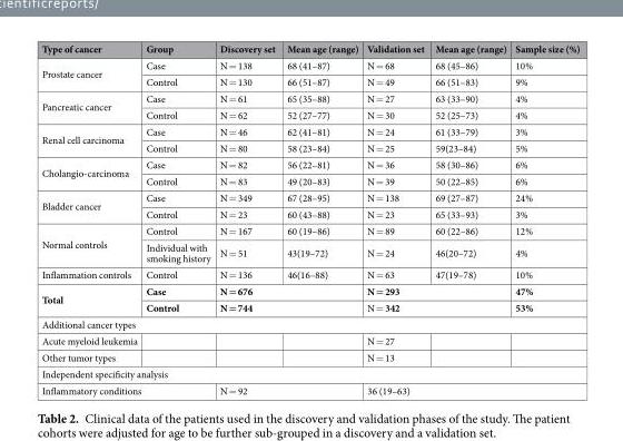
<table><thead><tr><td>Type of cancer</td><td>Group</td><td>Discovery set</td><td>Mean age (range)</td><td>Validation set</td><td>Mean age (range)</td><td>Sample size (%)</td></tr></thead><tbody><tr><td rowspan="2">Prostate cancer</td><td>Case</td><td>N = 138</td><td>68 (41–87)</td><td>N = 68</td><td>68 (45–86)</td><td>10%</td></tr><tr><td>Control</td><td>N = 130</td><td>66 (51–87)</td><td>N = 49</td><td>66 (51–83)</td><td>9%</td></tr><tr><td rowspan="2">Pancreatic cancer</td><td>Case</td><td>N = 61</td><td>65 (35–88)</td><td>N = 27</td><td>63 (33–90)</td><td>4%</td></tr><tr><td>Control</td><td>N = 62</td><td>52 (27–77)</td><td>N = 30</td><td>52 (25–73)</td><td>4%</td></tr><tr><td rowspan="2">Renal cell carcinoma</td><td>Case</td><td>N = 46</td><td>62 (41–81)</td><td>N = 24</td><td>61 (33–79)</td><td>3%</td></tr><tr><td>Control</td><td>N = 80</td><td>58 (23–84)</td><td>N = 25</td><td>59(23–84)</td><td>5%</td></tr><tr><td rowspan="2">Cholangio-carcinoma</td><td>Case</td><td>N = 82</td><td>56 (22–81)</td><td>N = 36</td><td>58 (30–86)</td><td>6%</td></tr><tr><td>Control</td><td>N = 83</td><td>49 (20–83)</td><td>N = 39</td><td>50 (22–85)</td><td>6%</td></tr><tr><td rowspan="2">Bladder cancer</td><td>Case</td><td>N = 349</td><td>67 (28–95)</td><td>N = 138</td><td>69 (27–87)</td><td>24%</td></tr><tr><td>Control</td><td>N = 23</td><td>60 (43–88)</td><td>N = 23</td><td>65 (33–93)</td><td>3%</td></tr><tr><td rowspan="2">Normal controls</td><td>Control</td><td>N = 167</td><td>60 (19–86)</td><td>N = 89</td><td>60 (22–86)</td><td>12%</td></tr><tr><td>Individual with smoking history</td><td>N = 51</td><td>43(19–72)</td><td>N = 24</td><td>46(20–72)</td><td>4%</td></tr><tr><td>Inflammation controls</td><td>Control</td><td>N = 136</td><td>46(16–88)</td><td>N = 63</td><td>47(19–78)</td><td>10%</td></tr><tr><td rowspan="2">Total</td><td>Case</td><td colspan="2">N = 676</td><td colspan="2">N = 293</td><td>47%</td></tr><tr><td>Control</td><td colspan="2">N = 744</td><td colspan="2">N = 342</td><td>53%</td></tr><tr><td colspan="7">Additional cancer types</td></tr><tr><td>Acute myeloid leukemia</td><td></td><td></td><td></td><td>N = 27</td><td></td><td></td></tr><tr><td>Other tumor types</td><td></td><td></td><td></td><td>N = 13</td><td></td><td></td></tr><tr><td colspan="7">Independent specificity analysis</td></tr><tr><td colspan="2">Inflammatory conditions</td><td colspan="2">N = 92</td><td colspan="3">36 (19–63)</td></tr></tbody></table>